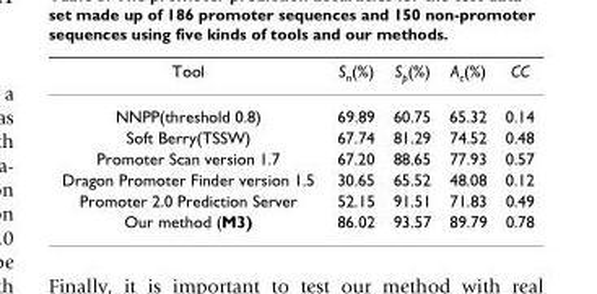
<table><thead><tr><td>Tool</td><td>S<sub>n</sub>(%)</td><td>S<sub>p</sub>(%)</td><td>A<sub>c</sub>(%)</td><td>CC</td></tr></thead><tbody><tr><td>NNPP(threshold 0.8)</td><td>69.89</td><td>60.75</td><td>65.32</td><td>0.14</td></tr><tr><td>Soft Berry(TSSW)</td><td>67.74</td><td>81.29</td><td>74.52</td><td>0.48</td></tr><tr><td>Promoter Scan version 1.7</td><td>67.20</td><td>88.65</td><td>77.93</td><td>0.57</td></tr><tr><td>Dragon Promoter Finder version 1.5</td><td>30.65</td><td>65.52</td><td>48.08</td><td>0.12</td></tr><tr><td>Promoter 2.0 Prediction Server</td><td>52.15</td><td>91.51</td><td>71.83</td><td>0.49</td></tr><tr><td>Our method (M3)</td><td>86.02</td><td>93.57</td><td>89.79</td><td>0.78</td></tr></tbody></table>